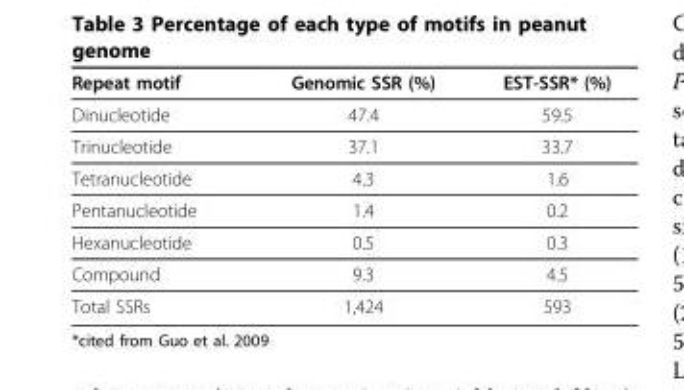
<table><thead><tr><td>Repeat motif</td><td>Genomic SSR (%)</td><td>EST-SSR* (%)</td></tr></thead><tbody><tr><td>Dinucleotide</td><td>47.4</td><td>59.5</td></tr><tr><td>Trinucleotide</td><td>37.1</td><td>33.7</td></tr><tr><td>Tetranucleotide</td><td>4.3</td><td>1.6</td></tr><tr><td>Pentanucleotide</td><td>1.4</td><td>0.2</td></tr><tr><td>Hexanucleotide</td><td>0.5</td><td>0.3</td></tr><tr><td>Compound</td><td>9.3</td><td>4.5</td></tr><tr><td>Total SSRs</td><td>1,424</td><td>593</td></tr></tbody></table>